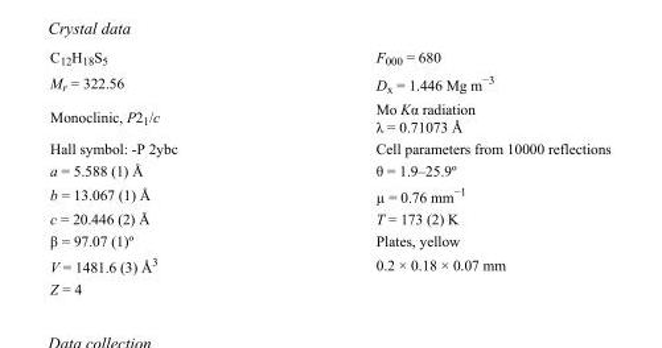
<table><tbody><tr><td>C<sub>12</sub>H<sub>18</sub>S<sub>5</sub></td><td>F<sub>000</sub> = 680</td></tr><tr><td>M<sub>r</sub> = 322.56</td><td>D<sub>x</sub> = 1.446 Mg m<sup>−3</sup></td></tr><tr><td>Monoclinic, P2<sub>1</sub>/c</td><td>Mo Kα radiation λ = 0.71073 Å</td></tr><tr><td>Hall symbol: -P 2ybc</td><td>Cell parameters from 10000 reflections</td></tr><tr><td>a = 5.588 (1) Å</td><td>θ = 1.9–25.9º</td></tr><tr><td>b = 13.067 (1) Å</td><td>µ = 0.76 mm<sup>−1</sup></td></tr><tr><td>c = 20.446 (2) Å</td><td>T = 173 (2) K</td></tr><tr><td>β = 97.07 (1)º</td><td>Plates, yellow</td></tr><tr><td>V = 1481.6 (3) Å<sup>3</sup></td><td>0.2 × 0.18 × 0.07 mm</td></tr><tr><td>Z = 4</td><td></td></tr></tbody></table>